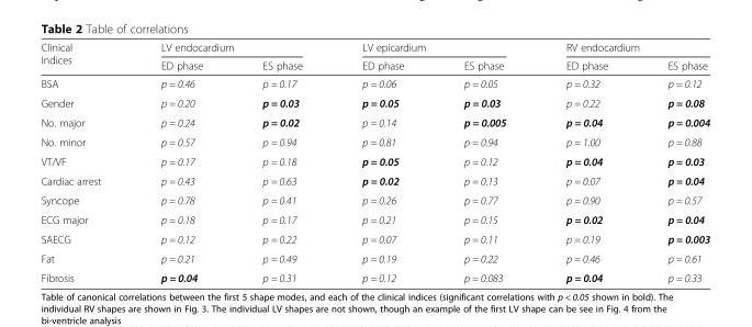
<table><thead><tr><td rowspan="2">Clinical Indices</td><td colspan="2">LV endocardium</td><td colspan="2">LV epicardium</td><td colspan="2">RV endocardium</td></tr><tr><td>ED phase</td><td>ES phase</td><td>ED phase</td><td>ES phase</td><td>ED phase</td><td>ES phase</td></tr></thead><tbody><tr><td>BSA</td><td>p = 0.46</td><td>p = 0.17</td><td>p = 0.06</td><td>p = 0.05</td><td>p = 0.32</td><td>p = 0.12</td></tr><tr><td>Gender</td><td>p = 0.20</td><td>p = 0.03</td><td>p = 0.05</td><td>p = 0.03</td><td>p = 0.22</td><td>p = 0.08</td></tr><tr><td>No. major</td><td>p = 0.24</td><td>p = 0.02</td><td>p = 0.14</td><td>p = 0.005</td><td>p = 0.04</td><td>p = 0.004</td></tr><tr><td>No. minor</td><td>p = 0.57</td><td>p = 0.94</td><td>p = 0.81</td><td>p = 0.94</td><td>p = 1.00</td><td>p = 0.88</td></tr><tr><td>VT/VF</td><td>p = 0.17</td><td>p = 0.18</td><td>p = 0.05</td><td>p = 0.12</td><td>p = 0.04</td><td>p = 0.03</td></tr><tr><td>Cardiac arrest</td><td>p = 0.43</td><td>p = 0.63</td><td>p = 0.02</td><td>p = 0.13</td><td>p = 0.07</td><td>p = 0.04</td></tr><tr><td>Syncope</td><td>p = 0.78</td><td>p = 0.41</td><td>p = 0.26</td><td>p = 0.77</td><td>p = 0.90</td><td>p = 0.57</td></tr><tr><td>ECG major</td><td>p = 0.18</td><td>p = 0.17</td><td>p = 0.21</td><td>p = 0.15</td><td>p = 0.02</td><td>p = 0.04</td></tr><tr><td>SAECG</td><td>p = 0.12</td><td>p = 0.22</td><td>p = 0.07</td><td>p = 0.11</td><td>p = 0.19</td><td>p = 0.003</td></tr><tr><td>Fat</td><td>p = 0.21</td><td>p = 0.49</td><td>p = 0.19</td><td>p = 0.22</td><td>p = 0.46</td><td>p = 0.61</td></tr><tr><td>Fibrosis</td><td>p = 0.04</td><td>p = 0.31</td><td>p = 0.12</td><td>p = 0.083</td><td>p = 0.04</td><td>p = 0.33</td></tr></tbody></table>